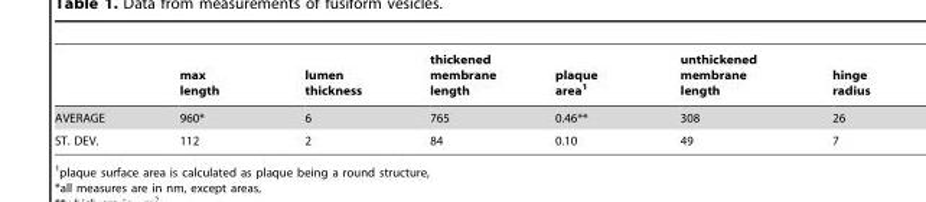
<table><thead><tr><td></td><td>max length</td><td>lumen thickness</td><td>thickened membrane length</td><td>plaque area<sup>1</sup></td><td>unthickened membrane length</td><td>hinge radius</td></tr></thead><tbody><tr><td>AVERAGE</td><td>960*</td><td>6</td><td>765</td><td>0.46**</td><td>308</td><td>26</td></tr><tr><td>ST. DEV.</td><td>112</td><td>2</td><td>84</td><td>0.10</td><td>49</td><td>7</td></tr></tbody></table>